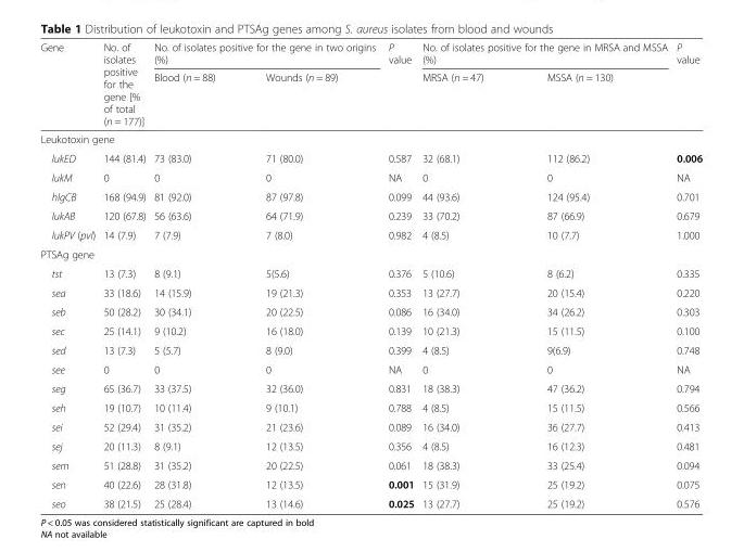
<table><thead><tr><td rowspan="2">Gene</td><td rowspan="2">No. of isolates positive for the gene [% of total (n = 177)]</td><td colspan="2">No. of isolates positive for the gene in two origins (%)</td><td rowspan="2">P value</td><td colspan="2">No. of isolates positive for the gene in MRSA and MSSA (%)</td><td rowspan="2">P value</td></tr><tr><td>Blood (n = 88)</td><td>Wounds (n = 89)</td><td>MRSA (n = 47)</td><td>MSSA (n = 130)</td></tr></thead><tbody><tr><td colspan="8">Leukotoxin gene</td></tr><tr><td>lukED</td><td>144 (81.4)</td><td>73 (83.0)</td><td>71 (80.0)</td><td>0.587</td><td>32 (68.1)</td><td>112 (86.2)</td><td>0.006</td></tr><tr><td>lukM</td><td>0</td><td>0</td><td>0</td><td>NA</td><td>0</td><td>0</td><td>NA</td></tr><tr><td>hlgCB</td><td>168 (94.9)</td><td>81 (92.0)</td><td>87 (97.8)</td><td>0.099</td><td>44 (93.6)</td><td>124 (95.4)</td><td>0.701</td></tr><tr><td>lukAB</td><td>120 (67.8)</td><td>56 (63.6)</td><td>64 (71.9)</td><td>0.239</td><td>33 (70.2)</td><td>87 (66.9)</td><td>0.679</td></tr><tr><td>lukPV (pvl)</td><td>14 (7.9)</td><td>7 (7.9)</td><td>7 (8.0)</td><td>0.982</td><td>4 (8.5)</td><td>10 (7.7)</td><td>1.000</td></tr><tr><td colspan="8">PTSAg gene</td></tr><tr><td>tst</td><td>13 (7.3)</td><td>8 (9.1)</td><td>5(5.6)</td><td>0.376</td><td>5 (10.6)</td><td>8 (6.2)</td><td>0.335</td></tr><tr><td>sea</td><td>33 (18.6)</td><td>14 (15.9)</td><td>19 (21.3)</td><td>0.353</td><td>13 (27.7)</td><td>20 (15.4)</td><td>0.220</td></tr><tr><td>seb</td><td>50 (28.2)</td><td>30 (34.1)</td><td>20 (22.5)</td><td>0.086</td><td>16 (34.0)</td><td>34 (26.2)</td><td>0.303</td></tr><tr><td>sec</td><td>25 (14.1)</td><td>9 (10.2)</td><td>16 (18.0)</td><td>0.139</td><td>10 (21.3)</td><td>15 (11.5)</td><td>0.100</td></tr><tr><td>sed</td><td>13 (7.3)</td><td>5 (5.7)</td><td>8 (9.0)</td><td>0.399</td><td>4 (8.5)</td><td>9(6.9)</td><td>0.748</td></tr><tr><td>see</td><td>0</td><td>0</td><td>0</td><td>NA</td><td>0</td><td>0</td><td>NA</td></tr><tr><td>seg</td><td>65 (36.7)</td><td>33 (37.5)</td><td>32 (36.0)</td><td>0.831</td><td>18 (38.3)</td><td>47 (36.2)</td><td>0.794</td></tr><tr><td>seh</td><td>19 (10.7)</td><td>10 (11.4)</td><td>9 (10.1)</td><td>0.788</td><td>4 (8.5)</td><td>15 (11.5)</td><td>0.566</td></tr><tr><td>sei</td><td>52 (29.4)</td><td>31 (35.2)</td><td>21 (23.6)</td><td>0.089</td><td>16 (34.0)</td><td>36 (27.7)</td><td>0.413</td></tr><tr><td>sej</td><td>20 (11.3)</td><td>8 (9.1)</td><td>12 (13.5)</td><td>0.356</td><td>4 (8.5)</td><td>16 (12.3)</td><td>0.481</td></tr><tr><td>sem</td><td>51 (28.8)</td><td>31 (35.2)</td><td>20 (22.5)</td><td>0.061</td><td>18 (38.3)</td><td>33 (25.4)</td><td>0.094</td></tr><tr><td>sen</td><td>40 (22.6)</td><td>28 (31.8)</td><td>12 (13.5)</td><td>0.001</td><td>15 (31.9)</td><td>25 (19.2)</td><td>0.075</td></tr><tr><td>seo</td><td>38 (21.5)</td><td>25 (28.4)</td><td>13 (14.6)</td><td>0.025</td><td>13 (27.7)</td><td>25 (19.2)</td><td>0.576</td></tr></tbody></table>